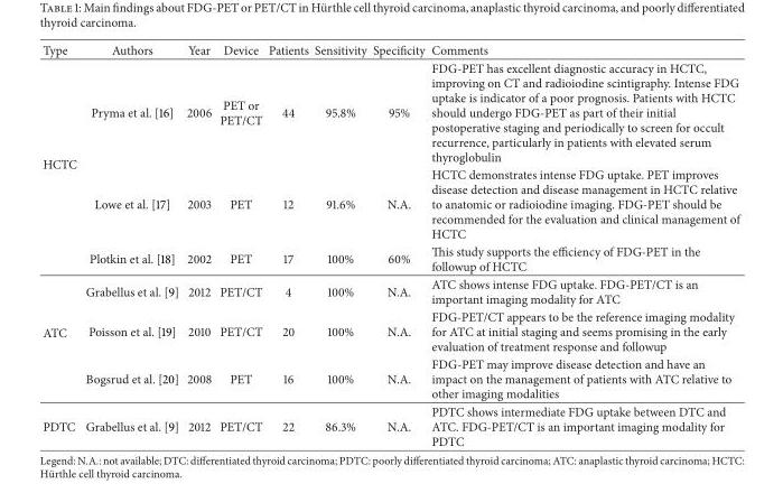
<table><thead><tr><td>Type</td><td>Authors</td><td>Year</td><td>Device</td><td>Patients</td><td>Sensitivity</td><td>Specificity</td><td>Comments</td></tr></thead><tbody><tr><td rowspan="3">HCTC</td><td>Pryma et al. [16]</td><td>2006</td><td>PET or PET/CT</td><td>44</td><td>95.8%</td><td>95%</td><td>FDG-PET has excellent diagnostic accuracy in HCTC, improving on CT and radioiodine scintigraphy. Intense FDG uptake is indicator of a poor prognosis. Patients with HCTC should undergo FDG-PET as part of their initial postoperative staging and periodically to screen for occult recurrence, particularly in patients with elevated serum thyroglobulin</td></tr><tr><td>Lowe et al. [17]</td><td>2003</td><td>PET</td><td>12</td><td>91.6%</td><td>N.A.</td><td>HCTC demonstrates intense FDG uptake. PET improves disease detection and disease management in HCTC relative to anatomic or radioiodine imaging. FDG-PET should be recommended for the evaluation and clinical management of HCTC</td></tr><tr><td>Plotkin et al. [18]</td><td>2002</td><td>PET</td><td>17</td><td>100%</td><td>60%</td><td>This study supports the efficiency of FDG-PET in the followup of HCTC</td></tr><tr><td rowspan="3">ATC</td><td>Grabellus et al. [9]</td><td>2012</td><td>PET/CT</td><td>4</td><td>100%</td><td>N.A.</td><td>ATC shows intense FDG uptake. FDG-PET/CT is an important imaging modality for ATC</td></tr><tr><td>Poisson et al. [19]</td><td>2010</td><td>PET/CT</td><td>20</td><td>100%</td><td>N.A.</td><td>FDG-PET/CT appears to be the reference imaging modality for ATC at initial staging and seems promising in the early evaluation of treatment response and followup</td></tr><tr><td>Bogsrud et al. [20]</td><td>2008</td><td>PET</td><td>16</td><td>100%</td><td>N.A.</td><td>FDG-PET may improve disease detection and have an impact on the management of patients with ATC relative to other imaging modalities</td></tr><tr><td>PDTC</td><td>Grabellus et al. [9]</td><td>2012</td><td>PET/CT</td><td>22</td><td>86.3%</td><td>N.A.</td><td>PDTC shows intermediate FDG uptake between DTC and ATC. FDG-PET/CT is an important imaging modality for PDTC</td></tr></tbody></table>